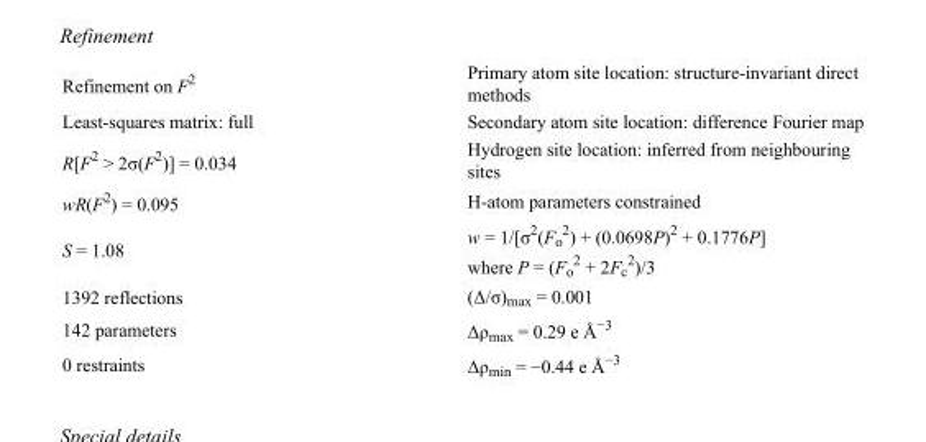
<table><tbody><tr><td>Refinement on F<sup>2</sup></td><td>Primary atom site location: structure-invariant direct methods</td></tr><tr><td>Least-squares matrix: full</td><td>Secondary atom site location: difference Fourier map</td></tr><tr><td>R[F<sup>2</sup> &gt; 2σ(F<sup>2</sup>)] = 0.034</td><td>Hydrogen site location: inferred from neighbouring sites</td></tr><tr><td>wR(F<sup>2</sup>) = 0.095</td><td>H-atom parameters constrained</td></tr><tr><td>S = 1.08</td><td>w = 1/[σ<sup>2</sup>(F<sub>o</sub> <sup>2</sup>) + (0.0698P)<sup>2</sup> + 0.1776P] where P = (F<sub>o</sub> <sup>2</sup> + 2F<sub>c</sub> <sup>2</sup>)/3</td></tr><tr><td>1392 reflections</td><td>(Δ/σ)<sub>max</sub> = 0.001</td></tr><tr><td>142 parameters</td><td>Δρ<sub>max</sub> = 0.29 e Å<sup>−3</sup></td></tr><tr><td>0 restraints</td><td>Δρ<sub>min</sub> = −0.44 e Å<sup>−3</sup></td></tr></tbody></table>